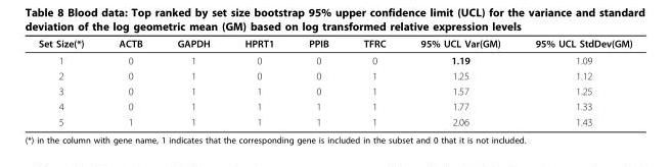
<table><thead><tr><td>Set Size(*)</td><td>ACTB</td><td>GAPDH</td><td>HPRT1</td><td>PPIB</td><td>TFRC</td><td>95% UCL Var(GM)</td><td>95% UCL StdDev(GM)</td></tr></thead><tbody><tr><td>1</td><td>0</td><td>1</td><td>0</td><td>0</td><td>0</td><td>1.19</td><td>1.09</td></tr><tr><td>2</td><td>0</td><td>1</td><td>0</td><td>0</td><td>1</td><td>1.25</td><td>1.12</td></tr><tr><td>3</td><td>0</td><td>1</td><td>1</td><td>0</td><td>1</td><td>1.57</td><td>1.25</td></tr><tr><td>4</td><td>0</td><td>1</td><td>1</td><td>1</td><td>1</td><td>1.77</td><td>1.33</td></tr><tr><td>5</td><td>1</td><td>1</td><td>1</td><td>1</td><td>1</td><td>2.06</td><td>1.43</td></tr></tbody></table>